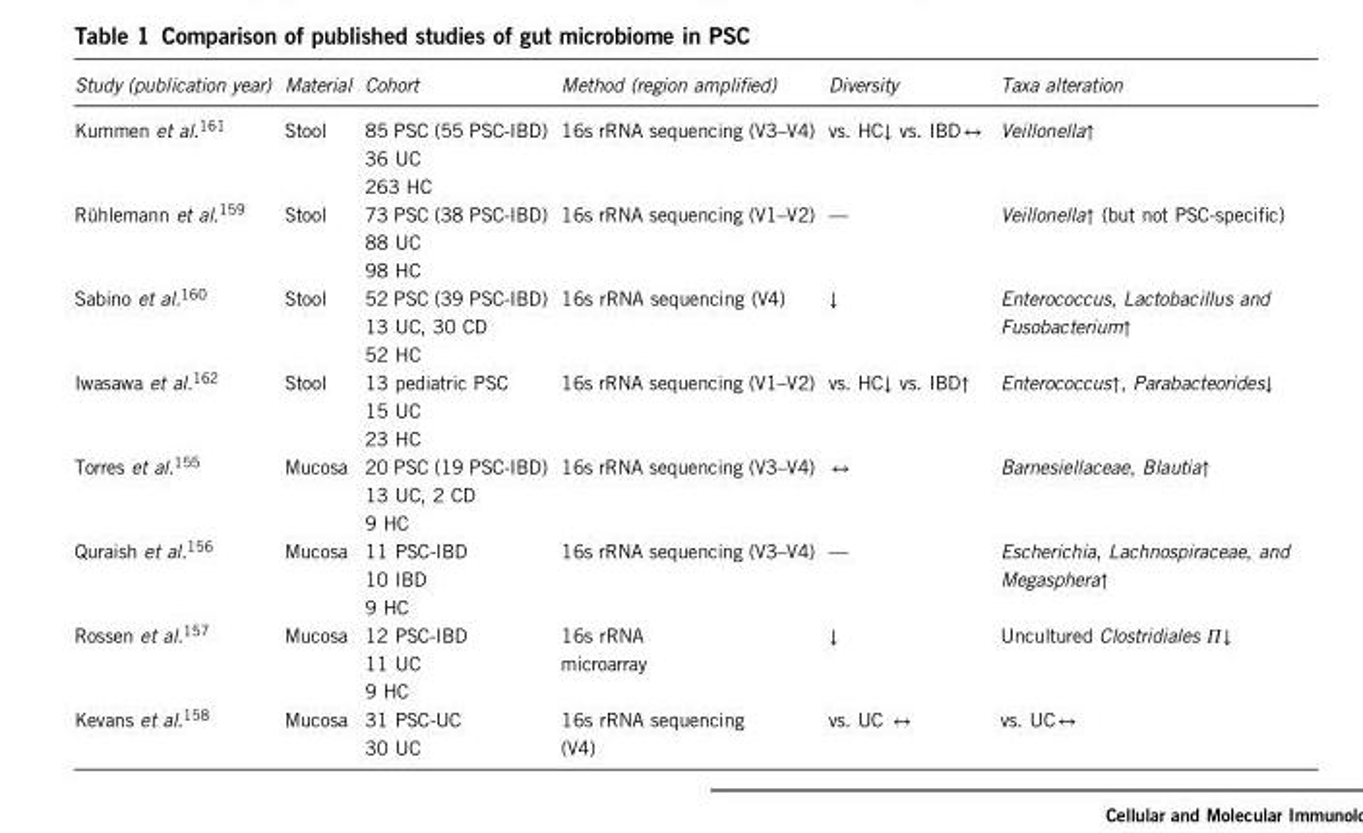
<table><thead><tr><td>Study (publication year)</td><td>Material</td><td>Cohort</td><td>Method (region amplified)</td><td>Diversity</td><td>Taxa alteration</td></tr></thead><tbody><tr><td>Kummen et al.<sup>161</sup></td><td>Stool</td><td>85 PSC (55 PSC-IBD) 36 UC 263 HC</td><td>16s rRNA sequencing (V3–V4)</td><td>vs. HC↓ vs. IBD ↔</td><td>Veillonella↑</td></tr><tr><td>Rühlemann et al.<sup>159</sup></td><td>Stool</td><td>73 PSC (38 PSC-IBD) 88 UC 98 HC</td><td>16s rRNA sequencing (V1–V2)</td><td>—</td><td>Veillonella↑ (but not PSC-specific)</td></tr><tr><td>Sabino et al.<sup>160</sup></td><td>Stool</td><td>52 PSC (39 PSC-IBD) 13 UC, 30 CD 52 HC</td><td>16s rRNA sequencing (V4)</td><td>↓</td><td>Enterococcus, Lactobacillus and Fusobacterium↑</td></tr><tr><td>Iwasawa et al.<sup>162</sup></td><td>Stool</td><td>13 pediatric PSC 15 UC 23 HC</td><td>16s rRNA sequencing (V1–V2)</td><td>vs. HC↓ vs. IBD↑</td><td>Enterococcus↑, Parabacteorides↓</td></tr><tr><td>Torres et al.<sup>155</sup></td><td>Mucosa</td><td>20 PSC (19 PSC-IBD) 13 UC, 2 CD 9 HC</td><td>16s rRNA sequencing (V3–V4)</td><td>↔</td><td>Barnesiellaceae, Blautia↑</td></tr><tr><td>Quraish et al.<sup>156</sup></td><td>Mucosa</td><td>11 PSC-IBD 10 IBD 9 HC</td><td>16s rRNA sequencing (V3–V4)</td><td>—</td><td>Escherichia, Lachnospiraceae, and Megasphera↑</td></tr><tr><td>Rossen et al.<sup>157</sup></td><td>Mucosa</td><td>12 PSC-IBD 11 UC 9 HC</td><td>16s rRNA microarray</td><td>↓</td><td>Uncultured Clostridiales Π↓</td></tr><tr><td>Kevans et al.<sup>158</sup></td><td>Mucosa</td><td>31 PSC-UC 30 UC</td><td>16s rRNA sequencing (V4)</td><td>vs. UC ↔</td><td>vs. UC↔</td></tr></tbody></table>